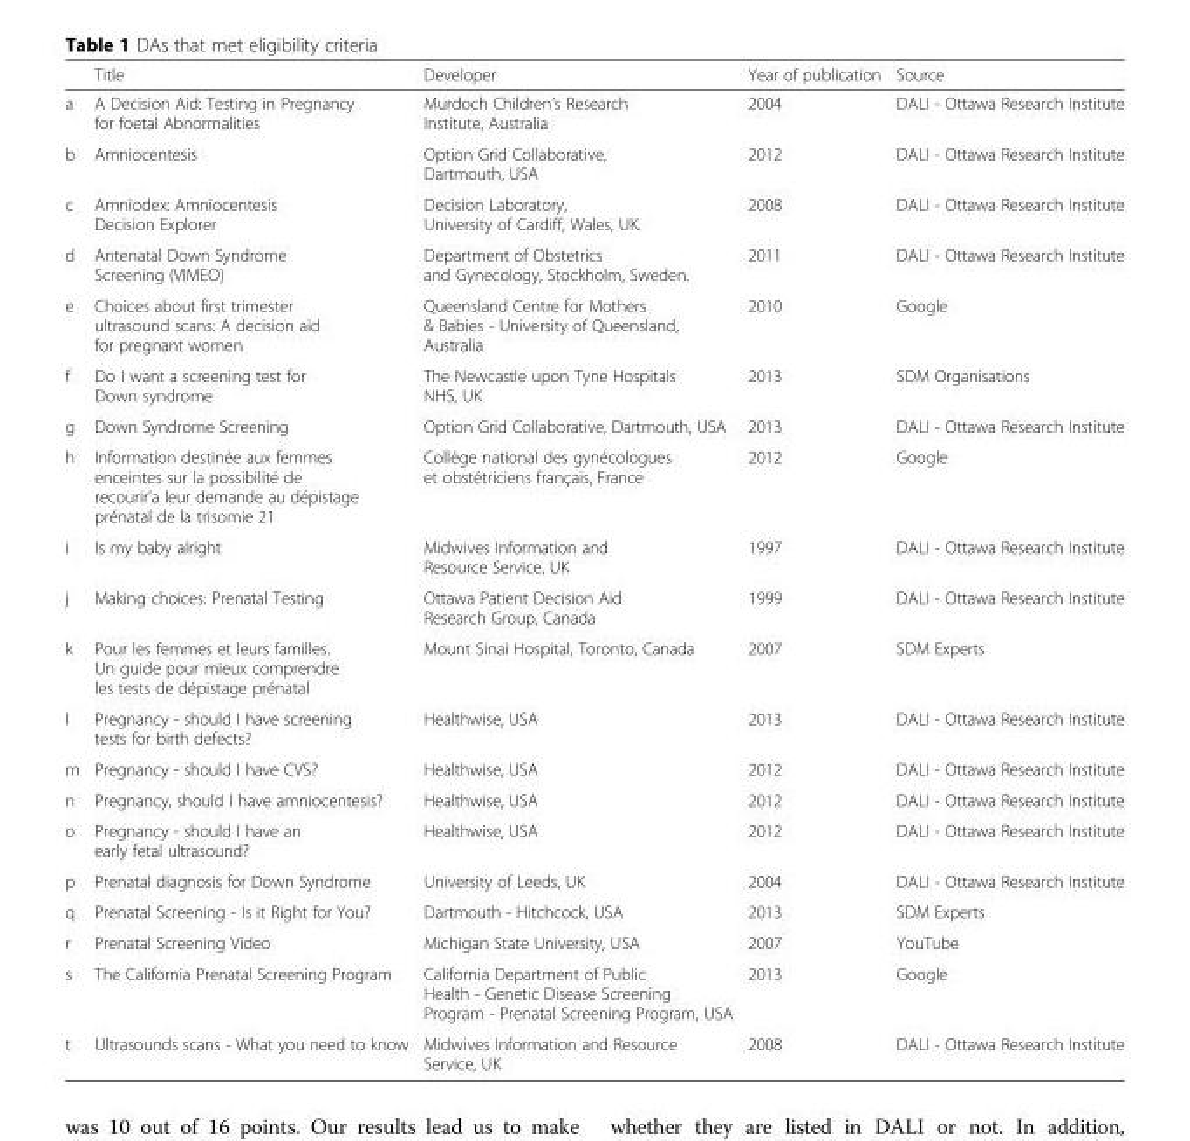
<table><thead><tr><td></td><td>Title</td><td>Developer</td><td>Year of publication</td><td>Source</td></tr></thead><tbody><tr><td>a</td><td>A Decision Aid: Testing in Pregnancy for foetal Abnormalities</td><td>Murdoch Children’s Research Institute, Australia</td><td>2004</td><td>DALI - Ottawa Research Institute</td></tr><tr><td>b</td><td>Amniocentesis</td><td>Option Grid Collaborative, Dartmouth, USA</td><td>2012</td><td>DALI - Ottawa Research Institute</td></tr><tr><td>c</td><td>Amniodex: Amniocentesis Decision Explorer</td><td>Decision Laboratory, University of Cardiff, Wales, UK.</td><td>2008</td><td>DALI - Ottawa Research Institute</td></tr><tr><td>d</td><td>Antenatal Down Syndrome Screening (VIMEO)</td><td>Department of Obstetrics and Gynecology, Stockholm, Sweden.</td><td>2011</td><td>DALI - Ottawa Research Institute</td></tr><tr><td>e</td><td>Choices about first trimester ultrasound scans: A decision aid for pregnant women</td><td>Queensland Centre for Mothers &amp; Babies - University of Queensland, Australia</td><td>2010</td><td>Google</td></tr><tr><td>f</td><td>Do I want a screening test for Down syndrome</td><td>The Newcastle upon Tyne Hospitals NHS, UK</td><td>2013</td><td>SDM Organisations</td></tr><tr><td>g</td><td>Down Syndrome Screening</td><td>Option Grid Collaborative, Dartmouth, USA</td><td>2013</td><td>DALI - Ottawa Research Institute</td></tr><tr><td>h</td><td>Information destinée aux femmes enceintes sur la possibilité de recourir’a leur demande au dépistage prénatal de la trisomie 21</td><td>Collège national des gynécologues et obstétriciens français, France</td><td>2012</td><td>Google</td></tr><tr><td>i</td><td>Is my baby alright</td><td>Midwives Information and Resource Service, UK</td><td>1997</td><td>DALI - Ottawa Research Institute</td></tr><tr><td>j</td><td>Making choices: Prenatal Testing</td><td>Ottawa Patient Decision Aid Research Group, Canada</td><td>1999</td><td>DALI - Ottawa Research Institute</td></tr><tr><td>k</td><td>Pour les femmes et leurs familles. Un guide pour mieux comprendre les tests de dépistage prénatal</td><td>Mount Sinai Hospital, Toronto, Canada</td><td>2007</td><td>SDM Experts</td></tr><tr><td>l</td><td>Pregnancy - should I have screening tests for birth defects?</td><td>Healthwise, USA</td><td>2013</td><td>DALI - Ottawa Research Institute</td></tr><tr><td>m</td><td>Pregnancy - should I have CVS?</td><td>Healthwise, USA</td><td>2012</td><td>DALI - Ottawa Research Institute</td></tr><tr><td>n</td><td>Pregnancy, should I have amniocentesis?</td><td>Healthwise, USA</td><td>2012</td><td>DALI - Ottawa Research Institute</td></tr><tr><td>o</td><td>Pregnancy - should I have an early fetal ultrasound?</td><td>Healthwise, USA</td><td>2012</td><td>DALI - Ottawa Research Institute</td></tr><tr><td>p</td><td>Prenatal diagnosis for Down Syndrome</td><td>University of Leeds, UK</td><td>2004</td><td>DALI - Ottawa Research Institute</td></tr><tr><td>q</td><td>Prenatal Screening - Is it Right for You?</td><td>Dartmouth - Hitchcock, USA</td><td>2013</td><td>SDM Experts</td></tr><tr><td>r</td><td>Prenatal Screening Video</td><td>Michigan State University, USA</td><td>2007</td><td>YouTube</td></tr><tr><td>s</td><td>The California Prenatal Screening Program</td><td>California Department of Public Health - Genetic Disease Screening Program - Prenatal Screening Program, USA</td><td>2013</td><td>Google</td></tr><tr><td>t</td><td>Ultrasounds scans - What you need to know</td><td>Midwives Information and Resource Service, UK</td><td>2008</td><td>DALI - Ottawa Research Institute</td></tr></tbody></table>